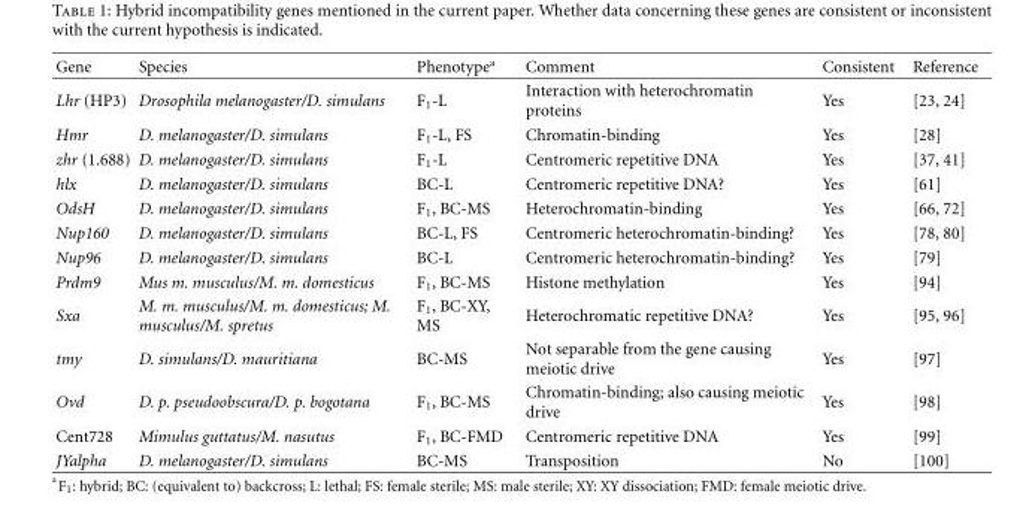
<table><thead><tr><td>Gene</td><td>Species</td><td>Phenotype<sup>a</sup></td><td>Comment</td><td>Consistent</td><td>Reference</td></tr></thead><tbody><tr><td>Lhr (HP3)</td><td>Drosophila melanogaster/D. simulans</td><td>F<sub>1</sub>-L</td><td>Interaction with heterochromatin proteins</td><td>Yes</td><td>[23, 24]</td></tr><tr><td>Hmr</td><td>D. melanogaster/D. simulans</td><td>F<sub>1</sub>-L, FS</td><td>Chromatin-binding</td><td>Yes</td><td>[28]</td></tr><tr><td>zhr (1.688)</td><td>D. melanogaster/D. simulans</td><td>F<sub>1</sub>-L</td><td>Centromeric repetitive DNA</td><td>Yes</td><td>[37, 41]</td></tr><tr><td>hlx</td><td>D. melanogaster/D. simulans</td><td>BC-L</td><td>Centromeric repetitive DNA?</td><td>Yes</td><td>[61]</td></tr><tr><td>OdsH</td><td>D. melanogaster/D. simulans</td><td>F<sub>1</sub>, BC-MS</td><td>Heterochromatin-binding</td><td>Yes</td><td>[66, 72]</td></tr><tr><td>Nup160</td><td>D. melanogaster/D. simulans</td><td>BC-L, FS</td><td>Centromeric heterochromatin-binding?</td><td>Yes</td><td>[78, 80]</td></tr><tr><td>Nup96</td><td>D. melanogaster/D. simulans</td><td>BC-L</td><td>Centromeric heterochromatin-binding?</td><td>Yes</td><td>[79]</td></tr><tr><td>Prdm9</td><td>Mus m. musculus/M. m. domesticus</td><td>F<sub>1</sub>, BC-MS</td><td>Histone methylation</td><td>Yes</td><td>[94]</td></tr><tr><td>Sxa</td><td>M. m. musculus/M. m. domesticus; M. musculus/M. spretus</td><td>F<sub>1</sub>, BC-XY, MS</td><td>Heterochromatic repetitive DNA?</td><td>Yes</td><td>[95, 96]</td></tr><tr><td>tmy</td><td>D. simulans/D. mauritiana</td><td>BC-MS</td><td>Not separable from the gene causing meiotic drive</td><td>Yes</td><td>[97]</td></tr><tr><td>Ovd</td><td>D. p. pseudoobscura/D. p. bogotana</td><td>F<sub>1</sub>, BC-MS</td><td>Chromatin-binding; also causing meiotic drive</td><td>Yes</td><td>[98]</td></tr><tr><td>Cent728</td><td>Mimulus guttatus/M. nasutus</td><td>F<sub>1</sub>, BC-FMD</td><td>Centromeric repetitive DNA</td><td>Yes</td><td>[99]</td></tr><tr><td>JYalpha</td><td>D. melanogaster/D. simulans</td><td>BC-MS</td><td>Transposition</td><td>No</td><td>[100]</td></tr></tbody></table>